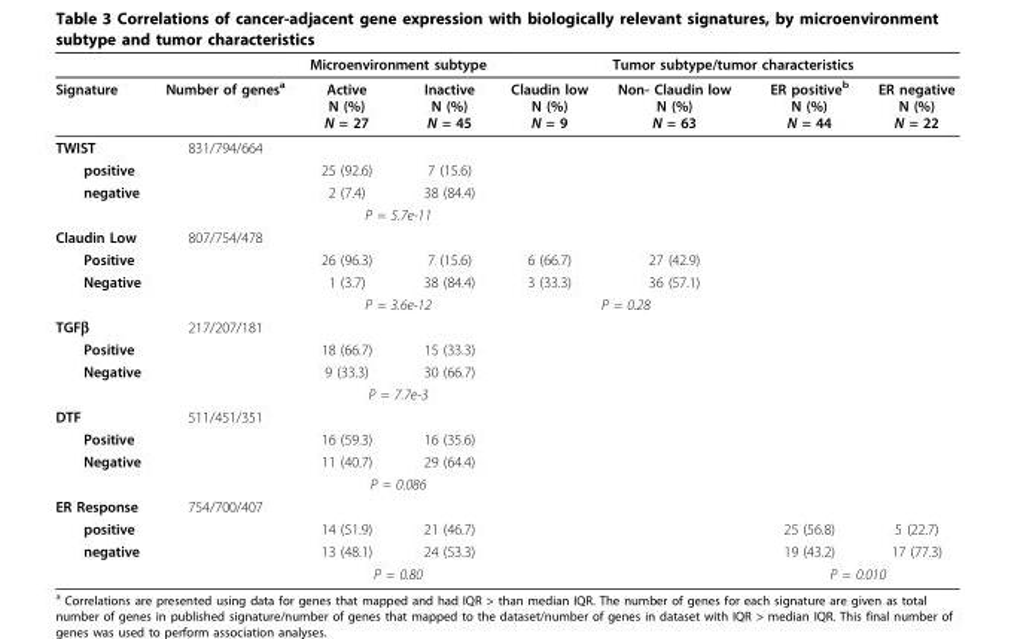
<table><thead><tr><td rowspan="2">Signature</td><td rowspan="2">Number of genes<sup>a</sup></td><td colspan="2">Microenvironment subtype</td><td rowspan="2">Claudin low N (%) N = 9</td><td colspan="2">Tumor subtype/tumor characteristics</td><td rowspan="2">ER negative N (%) N = 22</td></tr><tr><td>Active N (%) N = 27</td><td>Inactive N (%) N = 45</td><td>Non- Claudin low N (%) N = 63</td><td>ER positive<sup>b</sup> N (%) N = 44</td></tr></thead><tbody><tr><td>TWIST</td><td>831/794/664</td><td></td><td></td><td></td><td></td><td></td><td></td></tr><tr><td>positive</td><td></td><td>25 (92.6)</td><td>7 (15.6)</td><td></td><td></td><td></td><td></td></tr><tr><td rowspan="2">negative</td><td></td><td>2 (7.4)</td><td>38 (84.4)</td><td></td><td></td><td></td><td></td></tr><tr><td></td><td colspan="2">P = 5.7e-11</td><td></td><td></td><td></td><td></td></tr><tr><td>Claudin Low</td><td>807/754/478</td><td></td><td></td><td></td><td></td><td></td><td></td></tr><tr><td>Positive</td><td></td><td>26 (96.3)</td><td>7 (15.6)</td><td>6 (66.7)</td><td>27 (42.9)</td><td></td><td></td></tr><tr><td rowspan="2">Negative</td><td></td><td>1 (3.7)</td><td>38 (84.4)</td><td>3 (33.3)</td><td>36 (57.1)</td><td></td><td></td></tr><tr><td></td><td colspan="2">P = 3.6e-12</td><td colspan="2">P = 0.28</td><td></td><td></td></tr><tr><td>TGFβ</td><td>217/207/181</td><td></td><td></td><td></td><td></td><td></td><td></td></tr><tr><td>Positive</td><td></td><td>18 (66.7)</td><td>15 (33.3)</td><td></td><td></td><td></td><td></td></tr><tr><td rowspan="2">Negative</td><td></td><td>9 (33.3)</td><td>30 (66.7)</td><td></td><td></td><td></td><td></td></tr><tr><td></td><td colspan="2">P = 7.7e-3</td><td></td><td></td><td></td><td></td></tr><tr><td>DTF</td><td>511/451/351</td><td></td><td></td><td></td><td></td><td></td><td></td></tr><tr><td>Positive</td><td></td><td>16 (59.3)</td><td>16 (35.6)</td><td></td><td></td><td></td><td></td></tr><tr><td rowspan="2">Negative</td><td></td><td>11 (40.7)</td><td>29 (64.4)</td><td></td><td></td><td></td><td></td></tr><tr><td></td><td colspan="2">P = 0.086</td><td></td><td></td><td></td><td></td></tr><tr><td>ER Response</td><td>754/700/407</td><td></td><td></td><td></td><td></td><td></td><td></td></tr><tr><td>positive</td><td></td><td>14 (51.9)</td><td>21 (46.7)</td><td></td><td></td><td>25 (56.8)</td><td>5 (22.7)</td></tr><tr><td rowspan="2">negative</td><td></td><td>13 (48.1)</td><td>24 (53.3)</td><td></td><td></td><td>19 (43.2)</td><td>17 (77.3)</td></tr><tr><td></td><td colspan="2">P = 0.80</td><td></td><td></td><td colspan="2">P = 0.010</td></tr></tbody></table>